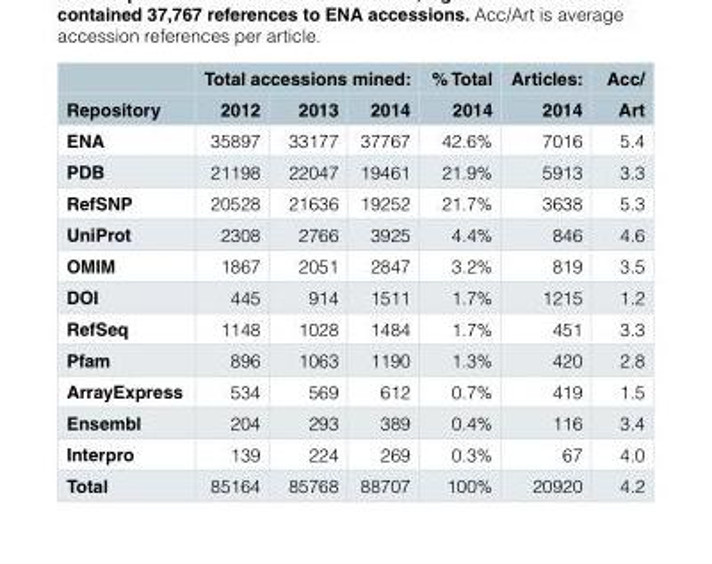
<table><thead><tr><td rowspan="2">Repository</td><td colspan="3">Total accessions mined:</td><td rowspan="2">% Total 2014</td><td rowspan="2">Articles: 2014</td><td rowspan="2">Acc/ Art</td></tr><tr><td>2012</td><td>2013</td><td>2014</td></tr></thead><tbody><tr><td>ENA</td><td>35897</td><td>33177</td><td>37767</td><td>42.6%</td><td>7016</td><td>5.4</td></tr><tr><td>PDB</td><td>21198</td><td>22047</td><td>19461</td><td>21.9%</td><td>5913</td><td>3.3</td></tr><tr><td>RefSNP</td><td>20528</td><td>21636</td><td>19252</td><td>21.7%</td><td>3638</td><td>5.3</td></tr><tr><td>UniProt</td><td>2308</td><td>2766</td><td>3925</td><td>4.4%</td><td>846</td><td>4.6</td></tr><tr><td>OMIM</td><td>1867</td><td>2051</td><td>2847</td><td>3.2%</td><td>819</td><td>3.5</td></tr><tr><td>DOI</td><td>445</td><td>914</td><td>1511</td><td>1.7%</td><td>1215</td><td>1.2</td></tr><tr><td>RefSeq</td><td>1148</td><td>1028</td><td>1484</td><td>1.7%</td><td>451</td><td>3.3</td></tr><tr><td>Pfam</td><td>896</td><td>1063</td><td>1190</td><td>1.3%</td><td>420</td><td>2.8</td></tr><tr><td>ArrayExpress</td><td>534</td><td>569</td><td>612</td><td>0.7%</td><td>419</td><td>1.5</td></tr><tr><td>Ensembl</td><td>204</td><td>293</td><td>389</td><td>0.4%</td><td>116</td><td>3.4</td></tr><tr><td>Interpro</td><td>139</td><td>224</td><td>269</td><td>0.3%</td><td>67</td><td>4.0</td></tr><tr><td>Total</td><td>85164</td><td>85768</td><td>88707</td><td>100%</td><td>20920</td><td>4.2</td></tr></tbody></table>